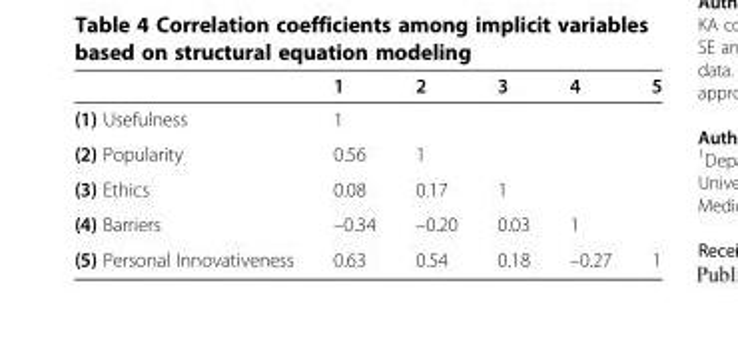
<table><thead><tr><td></td><td>1</td><td>2</td><td>3</td><td>4</td><td>5</td></tr></thead><tbody><tr><td>(1) Usefulness</td><td>1</td><td></td><td></td><td></td><td></td></tr><tr><td>(2) Popularity</td><td>0.56</td><td>1</td><td></td><td></td><td></td></tr><tr><td>(3) Ethics</td><td>0.08</td><td>0.17</td><td>1</td><td></td><td></td></tr><tr><td>(4) Barriers</td><td>–0.34</td><td>–0.20</td><td>0.03</td><td>1</td><td></td></tr><tr><td>(5) Personal Innovativeness</td><td>0.63</td><td>0.54</td><td>0.18</td><td>–0.27</td><td>1</td></tr></tbody></table>